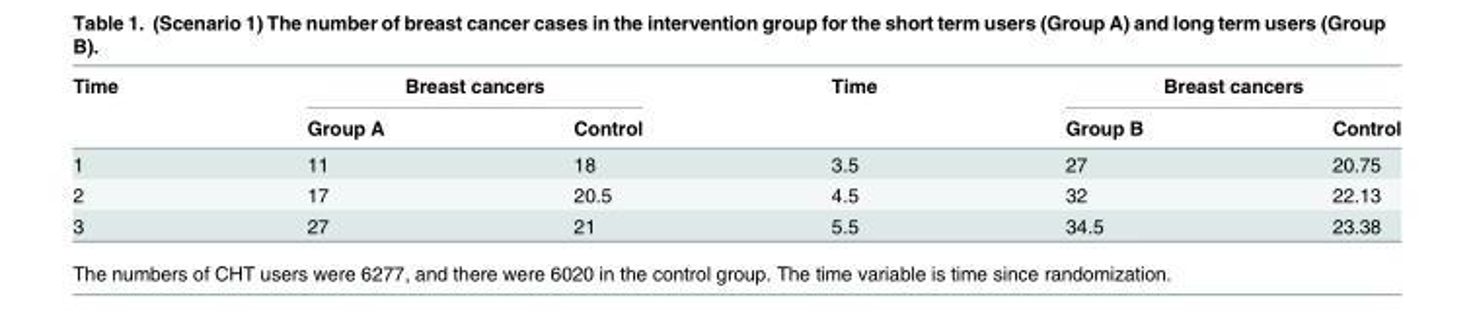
<table><thead><tr><td rowspan="2">Time</td><td colspan="2">Breast cancers</td><td rowspan="2">Time</td><td colspan="2">Breast cancers</td></tr><tr><td>Group A</td><td>Control</td><td>Group B</td><td>Control</td></tr></thead><tbody><tr><td>1</td><td>11</td><td>18</td><td>3.5</td><td>27</td><td>20.75</td></tr><tr><td>2</td><td>17</td><td>20.5</td><td>4.5</td><td>32</td><td>22.13</td></tr><tr><td>3</td><td>27</td><td>21</td><td>5.5</td><td>34.5</td><td>23.38</td></tr></tbody></table>